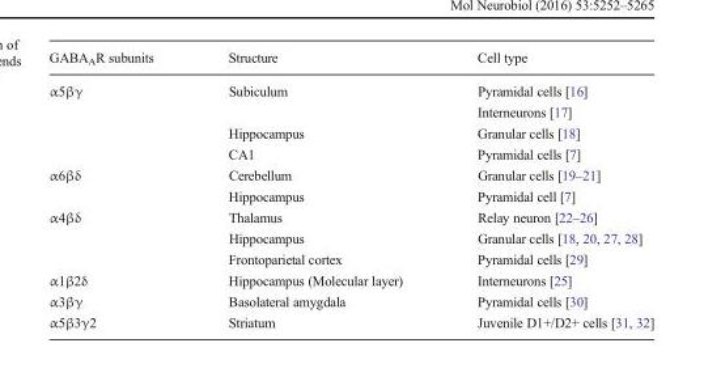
<table><thead><tr><td>GABA<sub>A</sub>R subunits</td><td>Structure</td><td>Cell type</td></tr></thead><tbody><tr><td rowspan="4">α5βγ</td><td>Subiculum</td><td>Pyramidal cells [16]</td></tr><tr><td></td><td>Interneurons [17]</td></tr><tr><td>Hippocampus</td><td>Granular cells [18]</td></tr><tr><td>CA1</td><td>Pyramidal cells [7]</td></tr><tr><td rowspan="2">α6βδ</td><td>Cerebellum</td><td>Granular cells [19–21]</td></tr><tr><td>Hippocampus</td><td>Pyramidal cell [7]</td></tr><tr><td rowspan="3">α4βδ</td><td>Thalamus</td><td>Relay neuron [22–26]</td></tr><tr><td>Hippocampus</td><td>Granular cells [18, 20, 27, 28]</td></tr><tr><td>Frontoparietal cortex</td><td>Pyramidal cells [29]</td></tr><tr><td>α1β2δ</td><td>Hippocampus (Molecular layer)</td><td>Interneurons [25]</td></tr><tr><td>α3βγ</td><td>Basolateral amygdala</td><td>Pyramidal cells [30]</td></tr><tr><td>α5β3γ2</td><td>Striatum</td><td>Juvenile D1+/D2+ cells [31, 32]</td></tr></tbody></table>